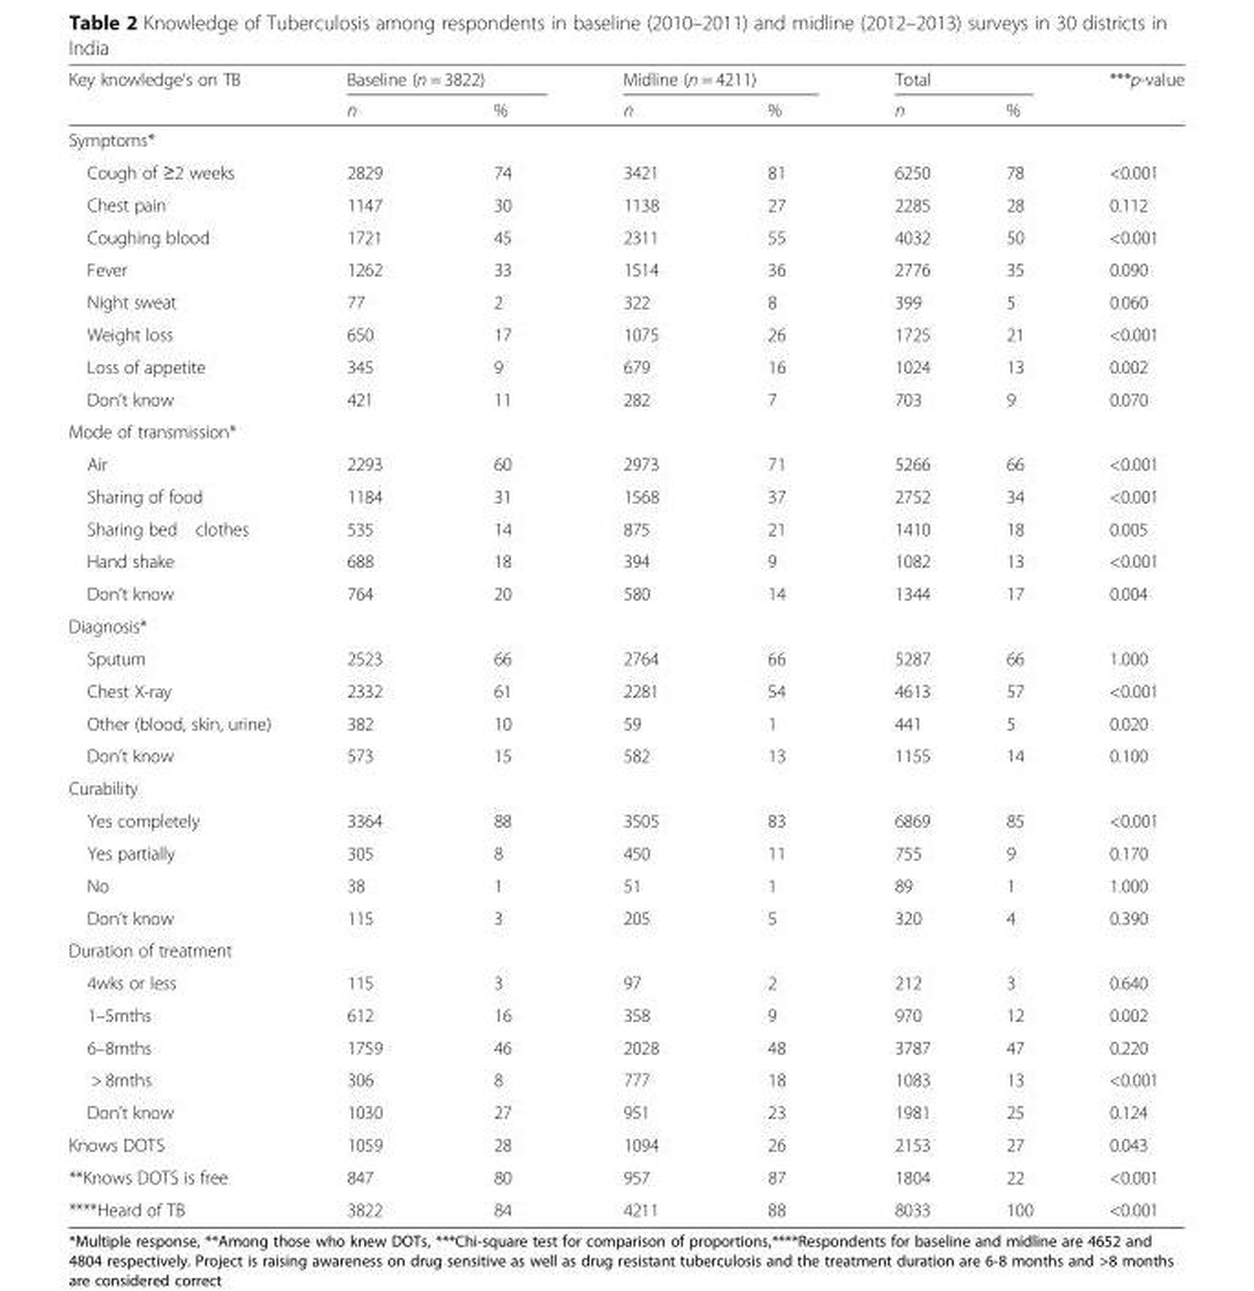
<table><thead><tr><td rowspan="2">Key knowledge’s on TB</td><td colspan="2">Baseline (n = 3822)</td><td colspan="2">Midline (n = 4211)</td><td colspan="2">Total</td><td rowspan="2">***p-value</td></tr><tr><td>n</td><td>%</td><td>n</td><td>%</td><td>n</td><td>%</td></tr></thead><tbody><tr><td colspan="8">Symptoms*</td></tr><tr><td>Cough of ≥2 weeks</td><td>2829</td><td>74</td><td>3421</td><td>81</td><td>6250</td><td>78</td><td>&lt;0.001</td></tr><tr><td>Chest pain</td><td>1147</td><td>30</td><td>1138</td><td>27</td><td>2285</td><td>28</td><td>0.112</td></tr><tr><td>Coughing blood</td><td>1721</td><td>45</td><td>2311</td><td>55</td><td>4032</td><td>50</td><td>&lt;0.001</td></tr><tr><td>Fever</td><td>1262</td><td>33</td><td>1514</td><td>36</td><td>2776</td><td>35</td><td>0.090</td></tr><tr><td>Night sweat</td><td>77</td><td>2</td><td>322</td><td>8</td><td>399</td><td>5</td><td>0.060</td></tr><tr><td>Weight loss</td><td>650</td><td>17</td><td>1075</td><td>26</td><td>1725</td><td>21</td><td>&lt;0.001</td></tr><tr><td>Loss of appetite</td><td>345</td><td>9</td><td>679</td><td>16</td><td>1024</td><td>13</td><td>0.002</td></tr><tr><td>Don’t know</td><td>421</td><td>11</td><td>282</td><td>7</td><td>703</td><td>9</td><td>0.070</td></tr><tr><td colspan="8">Mode of transmission*</td></tr><tr><td>Air</td><td>2293</td><td>60</td><td>2973</td><td>71</td><td>5266</td><td>66</td><td>&lt;0.001</td></tr><tr><td>Sharing of food</td><td>1184</td><td>31</td><td>1568</td><td>37</td><td>2752</td><td>34</td><td>&lt;0.001</td></tr><tr><td>Sharing bed clothes</td><td>535</td><td>14</td><td>875</td><td>21</td><td>1410</td><td>18</td><td>0.005</td></tr><tr><td>Hand shake</td><td>688</td><td>18</td><td>394</td><td>9</td><td>1082</td><td>13</td><td>&lt;0.001</td></tr><tr><td>Don’t know</td><td>764</td><td>20</td><td>580</td><td>14</td><td>1344</td><td>17</td><td>0.004</td></tr><tr><td colspan="8">Diagnosis*</td></tr><tr><td>Sputum</td><td>2523</td><td>66</td><td>2764</td><td>66</td><td>5287</td><td>66</td><td>1.000</td></tr><tr><td>Chest X-ray</td><td>2332</td><td>61</td><td>2281</td><td>54</td><td>4613</td><td>57</td><td>&lt;0.001</td></tr><tr><td>Other (blood, skin, urine)</td><td>382</td><td>10</td><td>59</td><td>1</td><td>441</td><td>5</td><td>0.020</td></tr><tr><td>Don’t know</td><td>573</td><td>15</td><td>582</td><td>13</td><td>1155</td><td>14</td><td>0.100</td></tr><tr><td colspan="8">Curability</td></tr><tr><td>Yes completely</td><td>3364</td><td>88</td><td>3505</td><td>83</td><td>6869</td><td>85</td><td>&lt;0.001</td></tr><tr><td>Yes partially</td><td>305</td><td>8</td><td>450</td><td>11</td><td>755</td><td>9</td><td>0.170</td></tr><tr><td>No</td><td>38</td><td>1</td><td>51</td><td>1</td><td>89</td><td>1</td><td>1.000</td></tr><tr><td>Don’t know</td><td>115</td><td>3</td><td>205</td><td>5</td><td>320</td><td>4</td><td>0.390</td></tr><tr><td colspan="8">Duration of treatment</td></tr><tr><td>4wks or less</td><td>115</td><td>3</td><td>97</td><td>2</td><td>212</td><td>3</td><td>0.640</td></tr><tr><td>1–5mths</td><td>612</td><td>16</td><td>358</td><td>9</td><td>970</td><td>12</td><td>0.002</td></tr><tr><td>6–8mths</td><td>1759</td><td>46</td><td>2028</td><td>48</td><td>3787</td><td>47</td><td>0.220</td></tr><tr><td>&gt; 8mths</td><td>306</td><td>8</td><td>777</td><td>18</td><td>1083</td><td>13</td><td>&lt;0.001</td></tr><tr><td>Don’t know</td><td>1030</td><td>27</td><td>951</td><td>23</td><td>1981</td><td>25</td><td>0.124</td></tr><tr><td>Knows DOTS</td><td>1059</td><td>28</td><td>1094</td><td>26</td><td>2153</td><td>27</td><td>0.043</td></tr><tr><td>**Knows DOTS is free</td><td>847</td><td>80</td><td>957</td><td>87</td><td>1804</td><td>22</td><td>&lt;0.001</td></tr><tr><td>****Heard of TB</td><td>3822</td><td>84</td><td>4211</td><td>88</td><td>8033</td><td>100</td><td>&lt;0.001</td></tr></tbody></table>